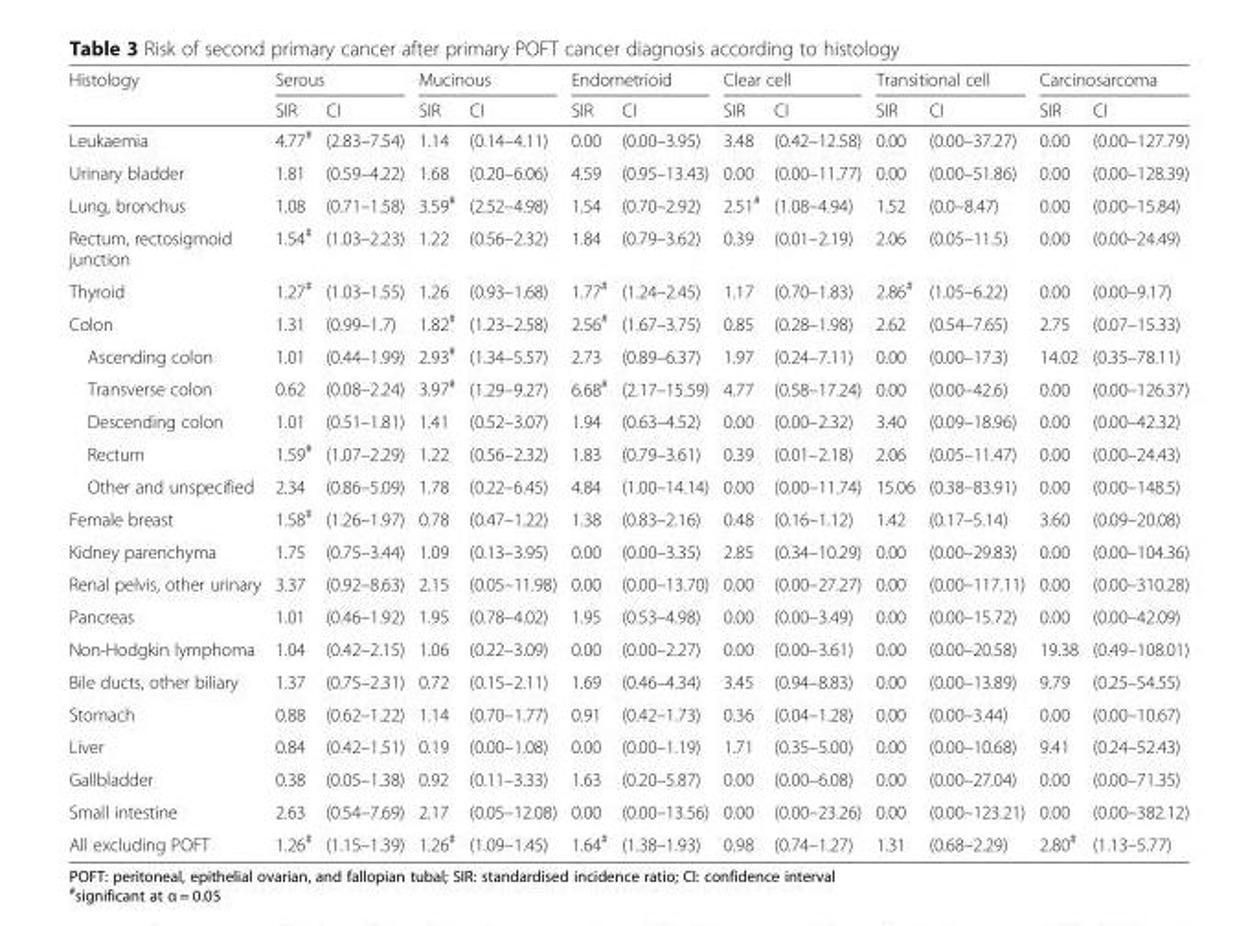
<table><thead><tr><td rowspan="2">Histology</td><td colspan="2">Serous</td><td colspan="2">Mucinous</td><td colspan="2">Endometrioid</td><td colspan="2">Clear cell</td><td colspan="2">Transitional cell</td><td colspan="2">Carcinosarcoma</td></tr><tr><td>SIR</td><td>CI</td><td>SIR</td><td>CI</td><td>SIR</td><td>CI</td><td>SIR</td><td>CI</td><td>SIR</td><td>CI</td><td>SIR</td><td>CI</td></tr></thead><tbody><tr><td>Leukaemia</td><td>4.77<sup>#</sup></td><td>(2.83–7.54)</td><td>1.14</td><td>(0.14–4.11)</td><td>0.00</td><td>(0.00–3.95)</td><td>3.48</td><td>(0.42–12.58)</td><td>0.00</td><td>(0.00–37.27)</td><td>0.00</td><td>(0.00–127.79)</td></tr><tr><td>Urinary bladder</td><td>1.81</td><td>(0.59–4.22)</td><td>1.68</td><td>(0.20–6.06)</td><td>4.59</td><td>(0.95–13.43)</td><td>0.00</td><td>(0.00–11.77)</td><td>0.00</td><td>(0.00–51.86)</td><td>0.00</td><td>(0.00–128.39)</td></tr><tr><td>Lung, bronchus</td><td>1.08</td><td>(0.71–1.58)</td><td>3.59<sup>#</sup></td><td>(2.52–4.98)</td><td>1.54</td><td>(0.70–2.92)</td><td>2.51<sup>#</sup></td><td>(1.08–4.94)</td><td>1.52</td><td>(0.0–8.47)</td><td>0.00</td><td>(0.00–15.84)</td></tr><tr><td>Rectum, rectosigmoid junction</td><td>1.54<sup>#</sup></td><td>(1.03–2.23)</td><td>1.22</td><td>(0.56–2.32)</td><td>1.84</td><td>(0.79–3.62)</td><td>0.39</td><td>(0.01–2.19)</td><td>2.06</td><td>(0.05–11.5)</td><td>0.00</td><td>(0.00–24.49)</td></tr><tr><td>Thyroid</td><td>1.27<sup>#</sup></td><td>(1.03–1.55)</td><td>1.26</td><td>(0.93–1.68)</td><td>1.77<sup>#</sup></td><td>(1.24–2.45)</td><td>1.17</td><td>(0.70–1.83)</td><td>2.86<sup>#</sup></td><td>(1.05–6.22)</td><td>0.00</td><td>(0.00–9.17)</td></tr><tr><td>Colon</td><td>1.31</td><td>(0.99–1.7)</td><td>1.82<sup>#</sup></td><td>(1.23–2.58)</td><td>2.56<sup>#</sup></td><td>(1.67–3.75)</td><td>0.85</td><td>(0.28–1.98)</td><td>2.62</td><td>(0.54–7.65)</td><td>2.75</td><td>(0.07–15.33)</td></tr><tr><td>Ascending colon</td><td>1.01</td><td>(0.44–1.99)</td><td>2.93<sup>#</sup></td><td>(1.34–5.57)</td><td>2.73</td><td>(0.89–6.37)</td><td>1.97</td><td>(0.24–7.11)</td><td>0.00</td><td>(0.00–17.3)</td><td>14.02</td><td>(0.35–78.11)</td></tr><tr><td>Transverse colon</td><td>0.62</td><td>(0.08–2.24)</td><td>3.97<sup>#</sup></td><td>(1.29–9.27)</td><td>6.68<sup>#</sup></td><td>(2.17–15.59)</td><td>4.77</td><td>(0.58–17.24)</td><td>0.00</td><td>(0.00–42.6)</td><td>0.00</td><td>(0.00–126.37)</td></tr><tr><td>Descending colon</td><td>1.01</td><td>(0.51–1.81)</td><td>1.41</td><td>(0.52–3.07)</td><td>1.94</td><td>(0.63–4.52)</td><td>0.00</td><td>(0.00–2.32)</td><td>3.40</td><td>(0.09–18.96)</td><td>0.00</td><td>(0.00–42.32)</td></tr><tr><td>Rectum</td><td>1.59<sup>#</sup></td><td>(1.07–2.29)</td><td>1.22</td><td>(0.56–2.32)</td><td>1.83</td><td>(0.79–3.61)</td><td>0.39</td><td>(0.01–2.18)</td><td>2.06</td><td>(0.05–11.47)</td><td>0.00</td><td>(0.00–24.43)</td></tr><tr><td>Other and unspecified</td><td>2.34</td><td>(0.86–5.09)</td><td>1.78</td><td>(0.22–6.45)</td><td>4.84</td><td>(1.00–14.14)</td><td>0.00</td><td>(0.00–11.74)</td><td>15.06</td><td>(0.38–83.91)</td><td>0.00</td><td>(0.00–148.5)</td></tr><tr><td>Female breast</td><td>1.58<sup>#</sup></td><td>(1.26–1.97)</td><td>0.78</td><td>(0.47–1.22)</td><td>1.38</td><td>(0.83–2.16)</td><td>0.48</td><td>(0.16–1.12)</td><td>1.42</td><td>(0.17–5.14)</td><td>3.60</td><td>(0.09–20.08)</td></tr><tr><td>Kidney parenchyma</td><td>1.75</td><td>(0.75–3.44)</td><td>1.09</td><td>(0.13–3.95)</td><td>0.00</td><td>(0.00–3.35)</td><td>2.85</td><td>(0.34–10.29)</td><td>0.00</td><td>(0.00–29.83)</td><td>0.00</td><td>(0.00–104.36)</td></tr><tr><td>Renal pelvis, other urinary</td><td>3.37</td><td>(0.92–8.63)</td><td>2.15</td><td>(0.05–11.98)</td><td>0.00</td><td>(0.00–13.70)</td><td>0.00</td><td>(0.00–27.27)</td><td>0.00</td><td>(0.00–117.11)</td><td>0.00</td><td>(0.00–310.28)</td></tr><tr><td>Pancreas</td><td>1.01</td><td>(0.46–1.92)</td><td>1.95</td><td>(0.78–4.02)</td><td>1.95</td><td>(0.53–4.98)</td><td>0.00</td><td>(0.00–3.49)</td><td>0.00</td><td>(0.00–15.72)</td><td>0.00</td><td>(0.00–42.09)</td></tr><tr><td>Non-Hodgkin lymphoma</td><td>1.04</td><td>(0.42–2.15)</td><td>1.06</td><td>(0.22–3.09)</td><td>0.00</td><td>(0.00–2.27)</td><td>0.00</td><td>(0.00–3.61)</td><td>0.00</td><td>(0.00–20.58)</td><td>19.38</td><td>(0.49–108.01)</td></tr><tr><td>Bile ducts, other biliary</td><td>1.37</td><td>(0.75–2.31)</td><td>0.72</td><td>(0.15–2.11)</td><td>1.69</td><td>(0.46–4.34)</td><td>3.45</td><td>(0.94–8.83)</td><td>0.00</td><td>(0.00–13.89)</td><td>9.79</td><td>(0.25–54.55)</td></tr><tr><td>Stomach</td><td>0.88</td><td>(0.62–1.22)</td><td>1.14</td><td>(0.70–1.77)</td><td>0.91</td><td>(0.42–1.73)</td><td>0.36</td><td>(0.04–1.28)</td><td>0.00</td><td>(0.00–3.44)</td><td>0.00</td><td>(0.00–10.67)</td></tr><tr><td>Liver</td><td>0.84</td><td>(0.42–1.51)</td><td>0.19</td><td>(0.00–1.08)</td><td>0.00</td><td>(0.00–1.19)</td><td>1.71</td><td>(0.35–5.00)</td><td>0.00</td><td>(0.00–10.68)</td><td>9.41</td><td>(0.24–52.43)</td></tr><tr><td>Gallbladder</td><td>0.38</td><td>(0.05–1.38)</td><td>0.92</td><td>(0.11–3.33)</td><td>1.63</td><td>(0.20–5.87)</td><td>0.00</td><td>(0.00–6.08)</td><td>0.00</td><td>(0.00–27.04)</td><td>0.00</td><td>(0.00–71.35)</td></tr><tr><td>Small intestine</td><td>2.63</td><td>(0.54–7.69)</td><td>2.17</td><td>(0.05–12.08)</td><td>0.00</td><td>(0.00–13.56)</td><td>0.00</td><td>(0.00–23.26)</td><td>0.00</td><td>(0.00–123.21)</td><td>0.00</td><td>(0.00–382.12)</td></tr><tr><td>All excluding POFT</td><td>1.26<sup>#</sup></td><td>(1.15–1.39)</td><td>1.26<sup>#</sup></td><td>(1.09–1.45)</td><td>1.64<sup>#</sup></td><td>(1.38–1.93)</td><td>0.98</td><td>(0.74–1.27)</td><td>1.31</td><td>(0.68–2.29)</td><td>2.80<sup>#</sup></td><td>(1.13–5.77)</td></tr></tbody></table>